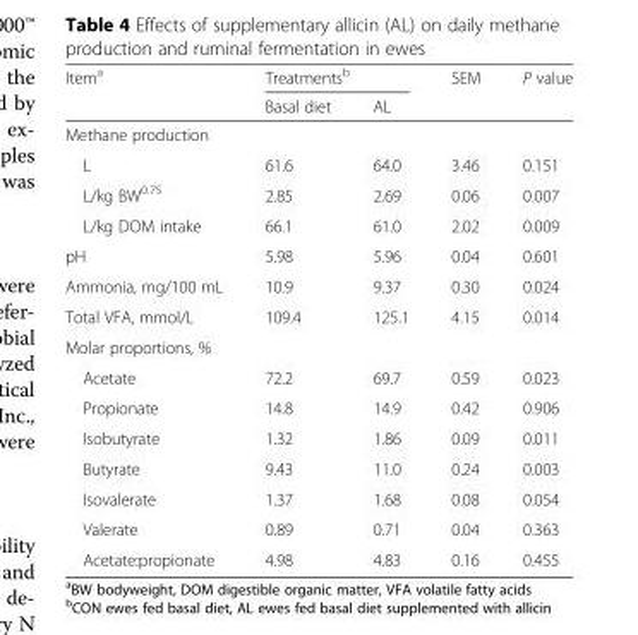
<table><thead><tr><td rowspan="2">Item<sup>a</sup></td><td colspan="2">Treatments<sup>b</sup></td><td rowspan="2">SEM</td><td rowspan="2">P value</td></tr><tr><td>Basal diet</td><td>AL</td></tr></thead><tbody><tr><td colspan="5">Methane production</td></tr><tr><td>L</td><td>61.6</td><td>64.0</td><td>3.46</td><td>0.151</td></tr><tr><td>L/kg BW<sup>0.75</sup></td><td>2.85</td><td>2.69</td><td>0.06</td><td>0.007</td></tr><tr><td>L/kg DOM intake</td><td>66.1</td><td>61.0</td><td>2.02</td><td>0.009</td></tr><tr><td>pH</td><td>5.98</td><td>5.96</td><td>0.04</td><td>0.601</td></tr><tr><td>Ammonia, mg/100 mL</td><td>10.9</td><td>9.37</td><td>0.30</td><td>0.024</td></tr><tr><td>Total VFA, mmol/L</td><td>109.4</td><td>125.1</td><td>4.15</td><td>0.014</td></tr><tr><td colspan="5">Molar proportions, %</td></tr><tr><td>Acetate</td><td>72.2</td><td>69.7</td><td>0.59</td><td>0.023</td></tr><tr><td>Propionate</td><td>14.8</td><td>14.9</td><td>0.42</td><td>0.906</td></tr><tr><td>Isobutyrate</td><td>1.32</td><td>1.86</td><td>0.09</td><td>0.011</td></tr><tr><td>Butyrate</td><td>9.43</td><td>11.0</td><td>0.24</td><td>0.003</td></tr><tr><td>Isovalerate</td><td>1.37</td><td>1.68</td><td>0.08</td><td>0.054</td></tr><tr><td>Valerate</td><td>0.89</td><td>0.71</td><td>0.04</td><td>0.363</td></tr><tr><td>Acetate:propionate</td><td>4.98</td><td>4.83</td><td>0.16</td><td>0.455</td></tr></tbody></table>